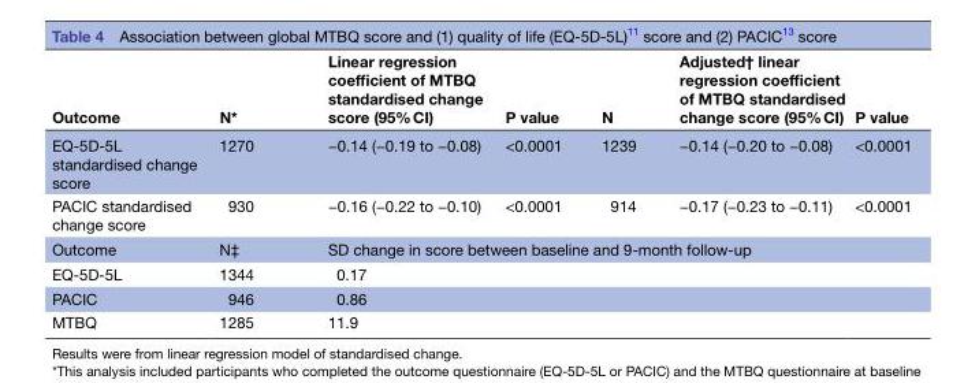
<table><thead><tr><td>Outcome</td><td>N*</td><td>Linear regression coefficient of MTBQ standardised change score (95% CI)</td><td>P value</td><td>N</td><td>Adjusted† linear regression coefficient of MTBQ standardised change score (95% CI)</td><td>P value</td></tr></thead><tbody><tr><td>EQ-5D-5L standardised change score</td><td>1270</td><td>−0.14 (−0.19 to −0.08)</td><td>&lt;0.0001</td><td>1239</td><td>−0.14 (−0.20 to −0.08)</td><td>&lt;0.0001</td></tr><tr><td>PACIC standardised change score</td><td>930</td><td>−0.16 (−0.22 to −0.10)</td><td>&lt;0.0001</td><td>914</td><td>−0.17 (−0.23 to −0.11)</td><td>&lt;0.0001</td></tr><tr><td>Outcome</td><td>N‡</td><td colspan="5">SD change in score between baseline and 9-month follow-up</td></tr><tr><td>EQ-5D-5L</td><td>1344</td><td colspan="5">0.17</td></tr><tr><td>PACIC</td><td>946</td><td colspan="5">0.86</td></tr><tr><td>MTBQ</td><td>1285</td><td colspan="5">11.9</td></tr></tbody></table>